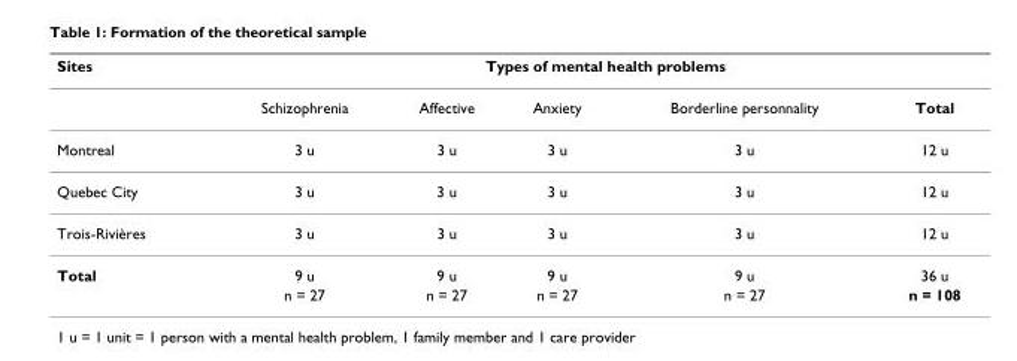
<table><thead><tr><td rowspan="2">Sites</td><td colspan="5">Types of mental health problems</td></tr><tr><td>Schizophrenia</td><td>Affective</td><td>Anxiety</td><td>Borderline personnality</td><td>Total</td></tr></thead><tbody><tr><td>Montreal</td><td>3 u</td><td>3 u</td><td>3 u</td><td>3 u</td><td>12 u</td></tr><tr><td>Quebec City</td><td>3 u</td><td>3 u</td><td>3 u</td><td>3 u</td><td>12 u</td></tr><tr><td>Trois-Rivières</td><td>3 u</td><td>3 u</td><td>3 u</td><td>3 u</td><td>12 u</td></tr><tr><td rowspan="2">Total</td><td>9 u</td><td>9 u</td><td>9 u</td><td>9 u</td><td>36 u</td></tr><tr><td>n = 27</td><td>n = 27</td><td>n = 27</td><td>n = 27</td><td>n = 108</td></tr></tbody></table>